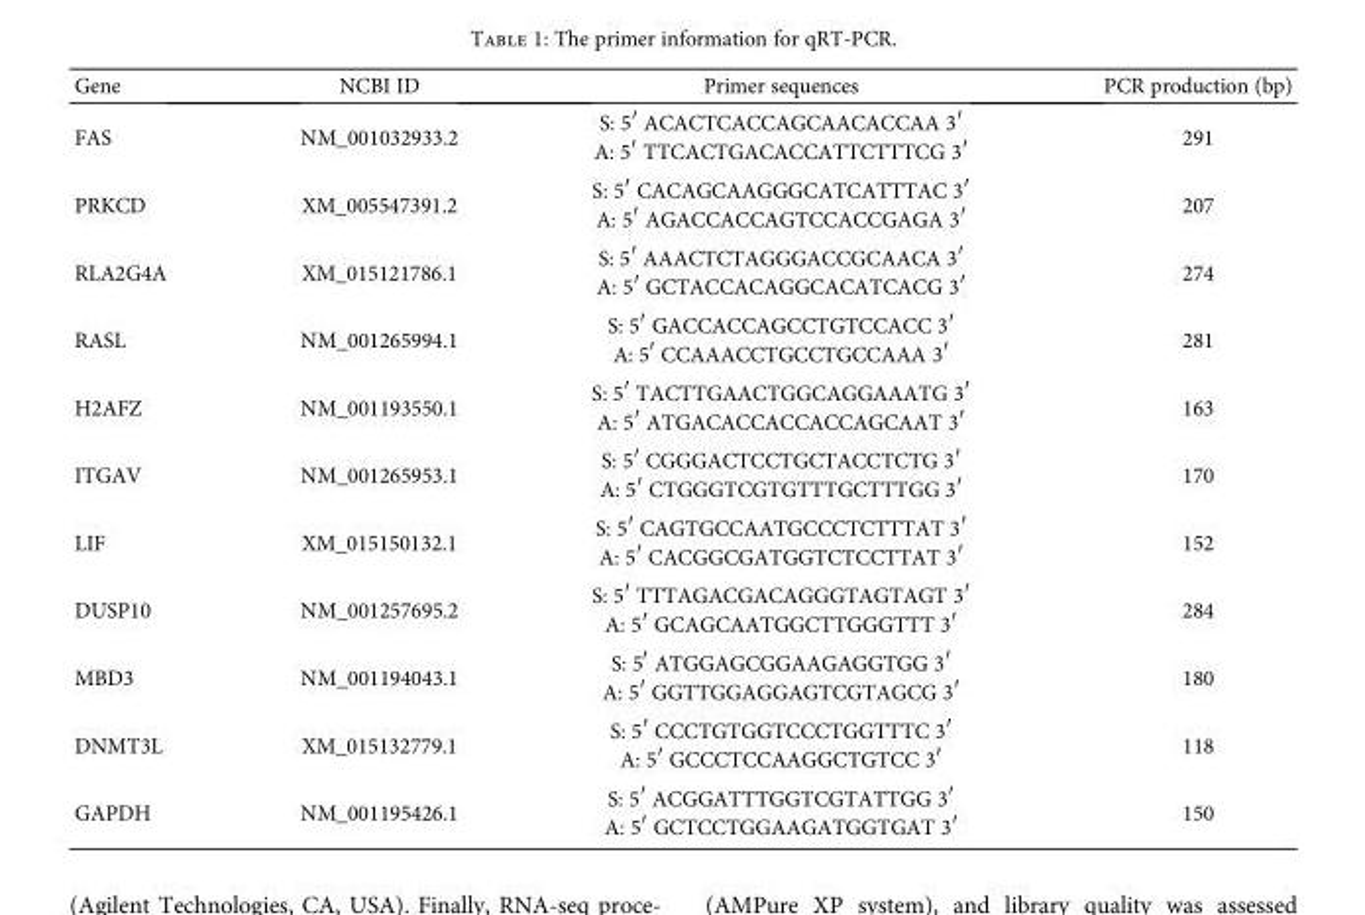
<table><thead><tr><td>Gene</td><td>NCBI ID</td><td>Primer sequences</td><td>PCR production (bp)</td></tr></thead><tbody><tr><td>FAS</td><td>NM_001032933.2</td><td>S: 5′ ACACTCACCAGCAACACCAA 3′ A: 5′ TTCACTGACACCATTCTTTCG 3′</td><td>291</td></tr><tr><td>PRKCD</td><td>XM_005547391.2</td><td>S: 5′ CACAGCAAGGGCATCATTTAC 3′ A: 5′ AGACCACCAGTCCACCGAGA 3′</td><td>207</td></tr><tr><td>RLA2G4A</td><td>XM_015121786.1</td><td>S: 5′ AAACTCTAGGGACCGCAACA 3′ A: 5′ GCTACCACAGGCACATCACG 3′</td><td>274</td></tr><tr><td>RASL</td><td>NM_001265994.1</td><td>S: 5′ GACCACCAGCCTGTCCACC 3′ A: 5′ CCAAACCTGCCTGCCAAA 3′</td><td>281</td></tr><tr><td>H2AFZ</td><td>NM_001193550.1</td><td>S: 5′ TACTTGAACTGGCAGGAAATG 3′ A: 5′ ATGACACCACCACCAGCAAT 3′</td><td>163</td></tr><tr><td>ITGAV</td><td>NM_001265953.1</td><td>S: 5′ CGGGACTCCTGCTACCTCTG 3′ A: 5′ CTGGGTCGTGTTTGCTTTGG 3′</td><td>170</td></tr><tr><td>LIF</td><td>XM_015150132.1</td><td>S: 5′ CAGTGCCAATGCCCTCTTTAT 3′ A: 5′ CACGGCGATGGTCTCCTTAT 3′</td><td>152</td></tr><tr><td>DUSP10</td><td>NM_001257695.2</td><td>S: 5′ TTTAGACGACAGGGTAGTAGT 3′ A: 5′ GCAGCAATGGCTTGGGTTT 3′</td><td>284</td></tr><tr><td>MBD3</td><td>NM_001194043.1</td><td>S: 5′ ATGGAGCGGAAGAGGTGG 3′ A: 5′ GGTTGGAGGAGTCGTAGCG 3′</td><td>180</td></tr><tr><td>DNMT3L</td><td>XM_015132779.1</td><td>S: 5′ CCCTGTGGTCCCTGGTTTC 3′ A: 5′ GCCCTCCAAGGCTGTCC 3′</td><td>118</td></tr><tr><td>GAPDH</td><td>NM_001195426.1</td><td>S: 5′ ACGGATTTGGTCGTATTGG 3′ A: 5′ GCTCCTGGAAGATGGTGAT 3′</td><td>150</td></tr></tbody></table>